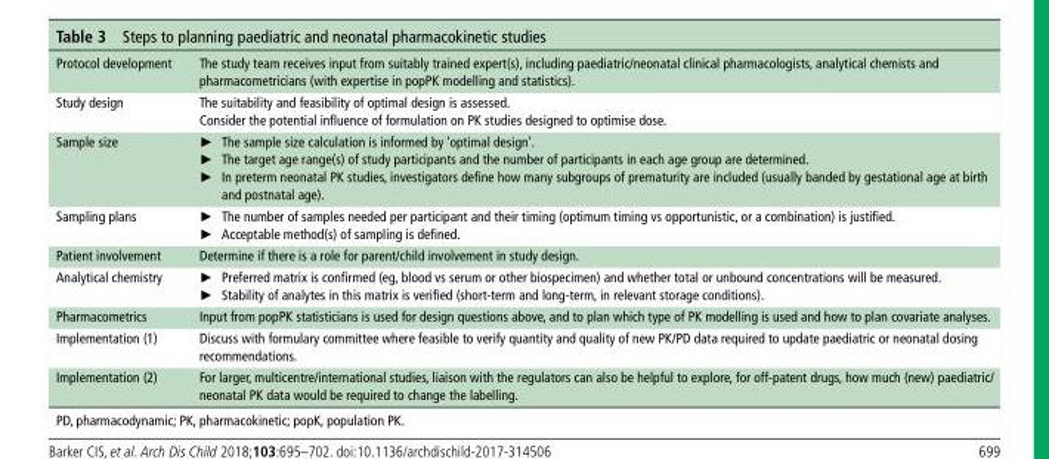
<table><tbody><tr><td>Protocol development</td><td>The study team receives input from suitably trained expert(s), including paediatric/neonatal clinical pharmacologists, analytical chemists and pharmacometricians (with expertise in popPK modelling and statistics).</td></tr><tr><td>Study design</td><td>The suitability and feasibility of optimal design is assessed. Consider the potential influence of formulation on PK studies designed to optimise dose.</td></tr><tr><td>Sample size</td><td>► The sample size calculation is informed by ‘optimal design’. ► The target age range(s) of study participants and the number of participants in each age group are determined. ► In preterm neonatal PK studies, investigators define how many subgroups of prematurity are included (usually banded by gestational age at birth and postnatal age).</td></tr><tr><td>Sampling plans</td><td>► The number of samples needed per participant and their timing (optimum timing vs opportunistic, or a combination) is justified. ► Acceptable method(s) of sampling is defined.</td></tr><tr><td>Patient involvement</td><td>Determine if there is a role for parent/child involvement in study design.</td></tr><tr><td>Analytical chemistry</td><td>► Preferred matrix is confirmed (eg, blood vs serum or other biospecimen) and whether total or unbound concentrations will be measured. ► Stability of analytes in this matrix is verified (short-term and long-term, in relevant storage conditions).</td></tr><tr><td>Pharmacometrics</td><td>Input from popPK statisticians is used for design questions above, and to plan which type of PK modelling is used and how to plan covariate analyses.</td></tr><tr><td>Implementation (1)</td><td>Discuss with formulary committee where feasible to verify quantity and quality of new PK/PD data required to update paediatric or neonatal dosing recommendations.</td></tr><tr><td>Implementation (2)</td><td>For larger, multicentre/international studies, liaison with the regulators can also be helpful to explore, for off-patent drugs, how much (new) paediatric/ neonatal PK data would be required to change the labelling.</td></tr></tbody></table>